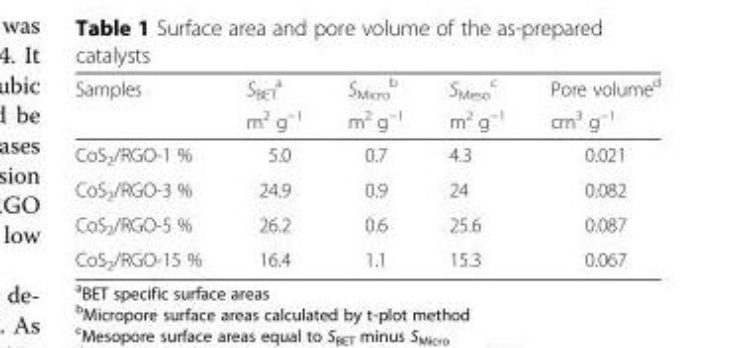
<table><thead><tr><td rowspan="2">Samples</td><td rowspan="2">S<sub>BET</sub> <sup>a</sup> m<sup>2</sup> g<sup>−1</sup></td><td rowspan="2">S<sub>Micro</sub> <sup>b</sup> m<sup>2</sup> g<sup>−1</sup></td><td rowspan="2">S<sub>Meso</sub> <sup>c</sup> m<sup>2</sup> g<sup>−1</sup></td><td rowspan="2">Pore volume<sup>d</sup> cm<sup>3</sup> g<sup>−1</sup></td></tr><tr></tr></thead><tbody><tr><td>CoS<sub>2</sub>/RGO-1 %</td><td>5.0</td><td>0.7</td><td>4.3</td><td>0.021</td></tr><tr><td>CoS<sub>2</sub>/RGO-3 %</td><td>24.9</td><td>0.9</td><td>24</td><td>0.082</td></tr><tr><td>CoS<sub>2</sub>/RGO-5 %</td><td>26.2</td><td>0.6</td><td>25.6</td><td>0.087</td></tr><tr><td>CoS<sub>2</sub>/RGO-15 %</td><td>16.4</td><td>1.1</td><td>15.3</td><td>0.067</td></tr></tbody></table>